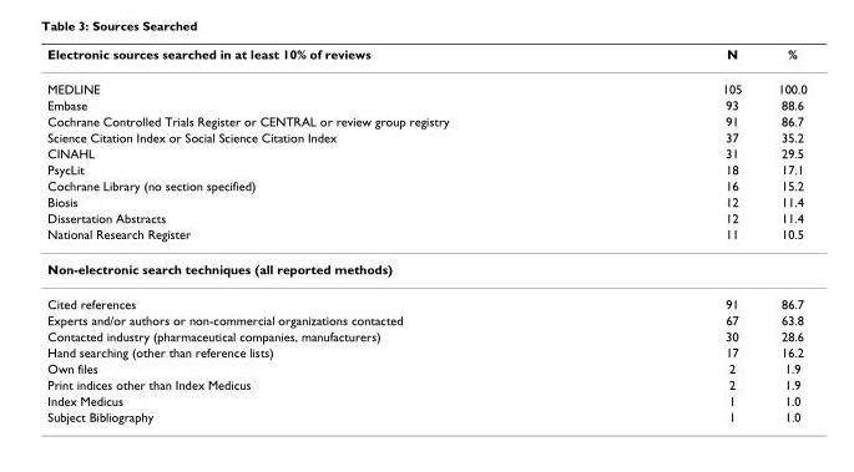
<table><thead><tr><td>Electronic sources searched in at least 10% of reviews</td><td>N</td><td>%</td></tr></thead><tbody><tr><td>MEDLINE</td><td>105</td><td>100.0</td></tr><tr><td>Embase</td><td>93</td><td>88.6</td></tr><tr><td>Cochrane Controlled Trials Register or CENTRAL or review group registry</td><td>91</td><td>86.7</td></tr><tr><td>Science Citation Index or Social Science Citation Index</td><td>37</td><td>35.2</td></tr><tr><td>CINAHL</td><td>31</td><td>29.5</td></tr><tr><td>PsycLit</td><td>18</td><td>17.1</td></tr><tr><td>Cochrane Library (no section specified)</td><td>16</td><td>15.2</td></tr><tr><td>Biosis</td><td>12</td><td>11.4</td></tr><tr><td>Dissertation Abstracts</td><td>12</td><td>11.4</td></tr><tr><td>National Research Register</td><td>11</td><td>10.5</td></tr><tr><td colspan="3">Non-electronic search techniques (all reported methods)</td></tr><tr><td>Cited references</td><td>91</td><td>86.7</td></tr><tr><td>Experts and/or authors or non-commercial organizations contacted</td><td>67</td><td>63.8</td></tr><tr><td>Contacted industry (pharmaceutical companies, manufacturers)</td><td>30</td><td>28.6</td></tr><tr><td>Hand searching (other than reference lists)</td><td>17</td><td>16.2</td></tr><tr><td>Own files</td><td>2</td><td>1.9</td></tr><tr><td>Print indices other than Index Medicus</td><td>2</td><td>1.9</td></tr><tr><td>Index Medicus</td><td>1</td><td>1.0</td></tr><tr><td>Subject Bibliography</td><td>1</td><td>1.0</td></tr></tbody></table>